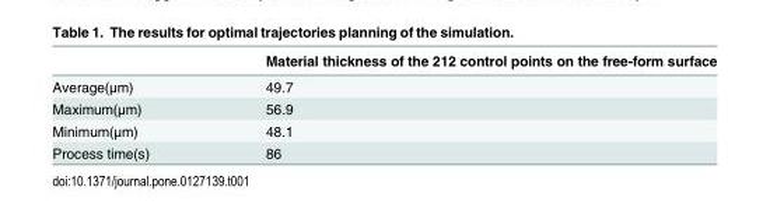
<table><thead><tr><td></td><td>Material thickness of the 212 control points on the free-form surface</td></tr></thead><tbody><tr><td>Average(μm)</td><td>49.7</td></tr><tr><td>Maximum(μm)</td><td>56.9</td></tr><tr><td>Minimum(μm)</td><td>48.1</td></tr><tr><td>Process time(s)</td><td>86</td></tr></tbody></table>